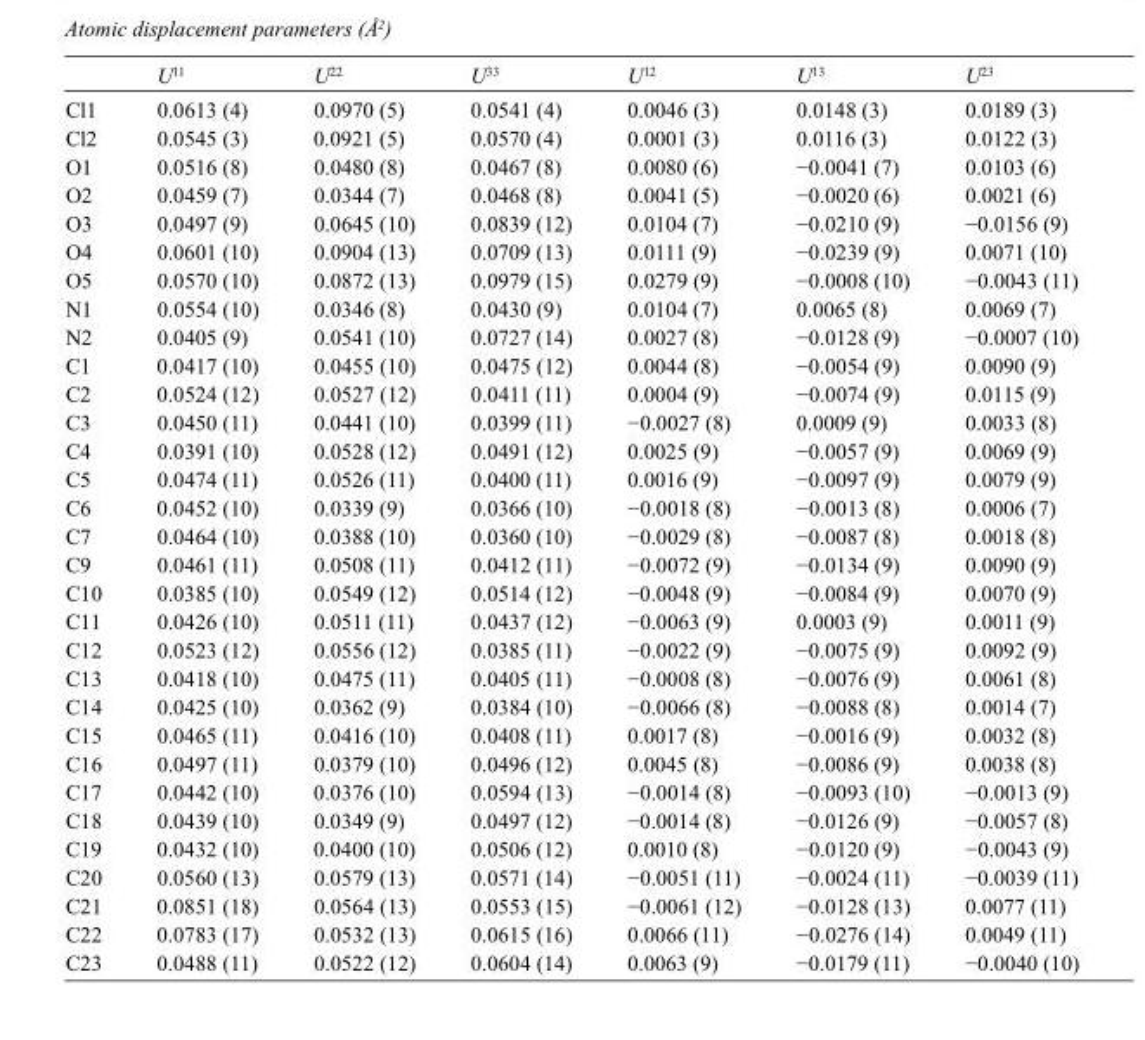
<table><thead><tr><td></td><td>U<sup>11</sup></td><td>U<sup>22</sup></td><td>U<sup>33</sup></td><td>U<sup>12</sup></td><td>U<sup>13</sup></td><td>U<sup>23</sup></td></tr></thead><tbody><tr><td>Cl1</td><td>0.0613 (4)</td><td>0.0970 (5)</td><td>0.0541 (4)</td><td>0.0046 (3)</td><td>0.0148 (3)</td><td>0.0189 (3)</td></tr><tr><td>Cl2</td><td>0.0545 (3)</td><td>0.0921 (5)</td><td>0.0570 (4)</td><td>0.0001 (3)</td><td>0.0116 (3)</td><td>0.0122 (3)</td></tr><tr><td>O1</td><td>0.0516 (8)</td><td>0.0480 (8)</td><td>0.0467 (8)</td><td>0.0080 (6)</td><td>−0.0041 (7)</td><td>0.0103 (6)</td></tr><tr><td>O2</td><td>0.0459 (7)</td><td>0.0344 (7)</td><td>0.0468 (8)</td><td>0.0041 (5)</td><td>−0.0020 (6)</td><td>0.0021 (6)</td></tr><tr><td>O3</td><td>0.0497 (9)</td><td>0.0645 (10)</td><td>0.0839 (12)</td><td>0.0104 (7)</td><td>−0.0210 (9)</td><td>−0.0156 (9)</td></tr><tr><td>O4</td><td>0.0601 (10)</td><td>0.0904 (13)</td><td>0.0709 (13)</td><td>0.0111 (9)</td><td>−0.0239 (9)</td><td>0.0071 (10)</td></tr><tr><td>O5</td><td>0.0570 (10)</td><td>0.0872 (13)</td><td>0.0979 (15)</td><td>0.0279 (9)</td><td>−0.0008 (10)</td><td>−0.0043 (11)</td></tr><tr><td>N1</td><td>0.0554 (10)</td><td>0.0346 (8)</td><td>0.0430 (9)</td><td>0.0104 (7)</td><td>0.0065 (8)</td><td>0.0069 (7)</td></tr><tr><td>N2</td><td>0.0405 (9)</td><td>0.0541 (10)</td><td>0.0727 (14)</td><td>0.0027 (8)</td><td>−0.0128 (9)</td><td>−0.0007 (10)</td></tr><tr><td>C1</td><td>0.0417 (10)</td><td>0.0455 (10)</td><td>0.0475 (12)</td><td>0.0044 (8)</td><td>−0.0054 (9)</td><td>0.0090 (9)</td></tr><tr><td>C2</td><td>0.0524 (12)</td><td>0.0527 (12)</td><td>0.0411 (11)</td><td>0.0004 (9)</td><td>−0.0074 (9)</td><td>0.0115 (9)</td></tr><tr><td>C3</td><td>0.0450 (11)</td><td>0.0441 (10)</td><td>0.0399 (11)</td><td>−0.0027 (8)</td><td>0.0009 (9)</td><td>0.0033 (8)</td></tr><tr><td>C4</td><td>0.0391 (10)</td><td>0.0528 (12)</td><td>0.0491 (12)</td><td>0.0025 (9)</td><td>−0.0057 (9)</td><td>0.0069 (9)</td></tr><tr><td>C5</td><td>0.0474 (11)</td><td>0.0526 (11)</td><td>0.0400 (11)</td><td>0.0016 (9)</td><td>−0.0097 (9)</td><td>0.0079 (9)</td></tr><tr><td>C6</td><td>0.0452 (10)</td><td>0.0339 (9)</td><td>0.0366 (10)</td><td>−0.0018 (8)</td><td>−0.0013 (8)</td><td>0.0006 (7)</td></tr><tr><td>C7</td><td>0.0464 (10)</td><td>0.0388 (10)</td><td>0.0360 (10)</td><td>−0.0029 (8)</td><td>−0.0087 (8)</td><td>0.0018 (8)</td></tr><tr><td>C9</td><td>0.0461 (11)</td><td>0.0508 (11)</td><td>0.0412 (11)</td><td>−0.0072 (9)</td><td>−0.0134 (9)</td><td>0.0090 (9)</td></tr><tr><td>C10</td><td>0.0385 (10)</td><td>0.0549 (12)</td><td>0.0514 (12)</td><td>−0.0048 (9)</td><td>−0.0084 (9)</td><td>0.0070 (9)</td></tr><tr><td>C11</td><td>0.0426 (10)</td><td>0.0511 (11)</td><td>0.0437 (12)</td><td>−0.0063 (9)</td><td>0.0003 (9)</td><td>0.0011 (9)</td></tr><tr><td>C12</td><td>0.0523 (12)</td><td>0.0556 (12)</td><td>0.0385 (11)</td><td>−0.0022 (9)</td><td>−0.0075 (9)</td><td>0.0092 (9)</td></tr><tr><td>C13</td><td>0.0418 (10)</td><td>0.0475 (11)</td><td>0.0405 (11)</td><td>−0.0008 (8)</td><td>−0.0076 (9)</td><td>0.0061 (8)</td></tr><tr><td>C14</td><td>0.0425 (10)</td><td>0.0362 (9)</td><td>0.0384 (10)</td><td>−0.0066 (8)</td><td>−0.0088 (8)</td><td>0.0014 (7)</td></tr><tr><td>C15</td><td>0.0465 (11)</td><td>0.0416 (10)</td><td>0.0408 (11)</td><td>0.0017 (8)</td><td>−0.0016 (9)</td><td>0.0032 (8)</td></tr><tr><td>C16</td><td>0.0497 (11)</td><td>0.0379 (10)</td><td>0.0496 (12)</td><td>0.0045 (8)</td><td>−0.0086 (9)</td><td>0.0038 (8)</td></tr><tr><td>C17</td><td>0.0442 (10)</td><td>0.0376 (10)</td><td>0.0594 (13)</td><td>−0.0014 (8)</td><td>−0.0093 (10)</td><td>−0.0013 (9)</td></tr><tr><td>C18</td><td>0.0439 (10)</td><td>0.0349 (9)</td><td>0.0497 (12)</td><td>−0.0014 (8)</td><td>−0.0126 (9)</td><td>−0.0057 (8)</td></tr><tr><td>C19</td><td>0.0432 (10)</td><td>0.0400 (10)</td><td>0.0506 (12)</td><td>0.0010 (8)</td><td>−0.0120 (9)</td><td>−0.0043 (9)</td></tr><tr><td>C20</td><td>0.0560 (13)</td><td>0.0579 (13)</td><td>0.0571 (14)</td><td>−0.0051 (11)</td><td>−0.0024 (11)</td><td>−0.0039 (11)</td></tr><tr><td>C21</td><td>0.0851 (18)</td><td>0.0564 (13)</td><td>0.0553 (15)</td><td>−0.0061 (12)</td><td>−0.0128 (13)</td><td>0.0077 (11)</td></tr><tr><td>C22</td><td>0.0783 (17)</td><td>0.0532 (13)</td><td>0.0615 (16)</td><td>0.0066 (11)</td><td>−0.0276 (14)</td><td>0.0049 (11)</td></tr><tr><td>C23</td><td>0.0488 (11)</td><td>0.0522 (12)</td><td>0.0604 (14)</td><td>0.0063 (9)</td><td>−0.0179 (11)</td><td>−0.0040 (10)</td></tr></tbody></table>